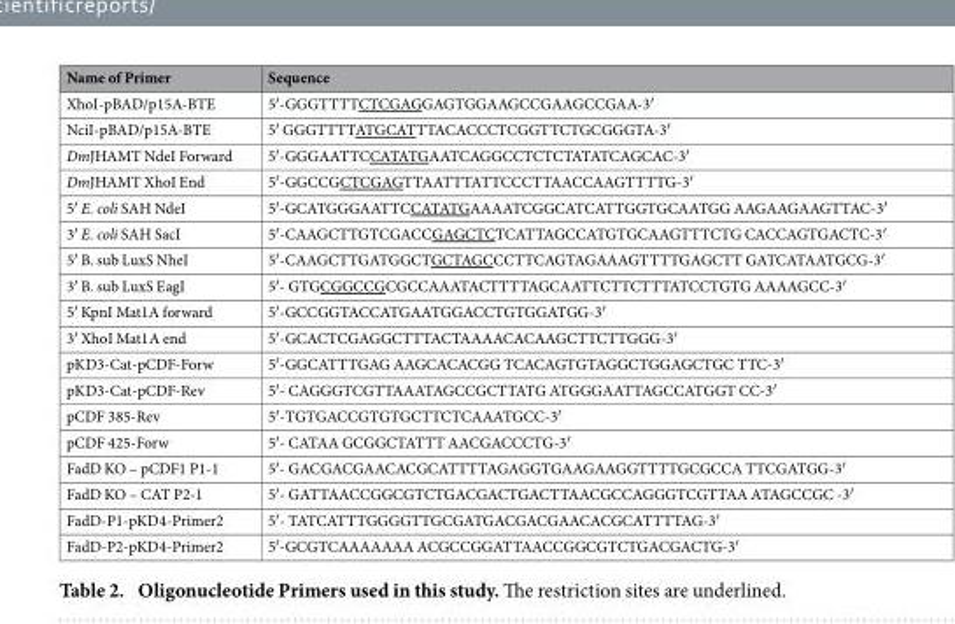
<table><thead><tr><td>Name of Primer</td><td>Sequence</td></tr></thead><tbody><tr><td>XhoI-pBAD/p15A-BTE</td><td>5′-GGGTTTTCTCGAGGAGTGGAAGCCGAAGCCGAA-3′</td></tr><tr><td>NciI-pBAD/p15A-BTE</td><td>5′ GGGTTTTATGCATTTACACCCTCGGTTCTGCGGGTA-3′</td></tr><tr><td>DmJHAMT NdeI Forward</td><td>5′-GGGAATTCCATATGAATCAGGCCTCTCTATATCAGCAC-3′</td></tr><tr><td>DmJHAMT XhoI End</td><td>5′-GGCCGCTCGAGTTAATTTATTCCCTTAACCAAGTTTTG-3′</td></tr><tr><td>5′ E. coli SAH NdeI</td><td>5′-GCATGGGAATTCCATATGAAAATCGGCATCATTGGTGCAATGG AAGAAGAAGTTAC-3′</td></tr><tr><td>3′ E. coli SAH SacI</td><td>5′-CAAGCTTGTCGACCGAGCTCTCATTAGCCATGTGCAAGTTTCTG CACCAGTGACTC-3′</td></tr><tr><td>5′ B. sub LuxS NheI</td><td>5′-CAAGCTTGATGGCTGCTAGCCCTTCAGTAGAAAGTTTTGAGCTT GATCATAATGCG-3′</td></tr><tr><td>3′ B. sub LuxS EagI</td><td>5′- GTGCGGCCGCGCCAAATACTTTTAGCAATTCTTCTTTATCCTGTG AAAAGCC-3′</td></tr><tr><td>5′ KpnI Mat1A forward</td><td>5′-GCCGGTACCATGAATGGACCTGTGGATGG-3′</td></tr><tr><td>3′ XhoI Mat1A end</td><td>5′-GCACTCGAGGCTTTACTAAAACACAAGCTTCTTGGG-3′</td></tr><tr><td>pKD3-Cat-pCDF-Forw</td><td>5′-GGCATTTGAG AAGCACACGG TCACAGTGTAGGCTGGAGCTGC TTC-3′</td></tr><tr><td>pKD3-Cat-pCDF-Rev</td><td>5′- CAGGGTCGTTAAATAGCCGCTTATG ATGGGAATTAGCCATGGT CC-3′</td></tr><tr><td>pCDF 385-Rev</td><td>5′-TGTGACCGTGTGCTTCTCAAATGCC-3′</td></tr><tr><td>pCDF 425-Forw</td><td>5′- CATAA GCGGCTATTT AACGACCCTG-3′</td></tr><tr><td>FadD KO – pCDF1 P1-1</td><td>5′- GACGACGAACACGCATTTTAGAGGTGAAGAAGGTTTTGCGCCA TTCGATGG-3′</td></tr><tr><td>FadD KO – CAT P2-1</td><td>5′- GATTAACCGGCGTCTGACGACTGACTTAACGCCAGGGTCGTTAA ATAGCCGC -3′</td></tr><tr><td>FadD-P1-pKD4-Primer2</td><td>5′- TATCATTTGGGGTTGCGATGACGACGAACACGCATTTTAG-3′</td></tr><tr><td>FadD-P2-pKD4-Primer2</td><td>5′-GCGTCAAAAAAA ACGCCGGATTAACCGGCGTCTGACGACTG-3′</td></tr></tbody></table>